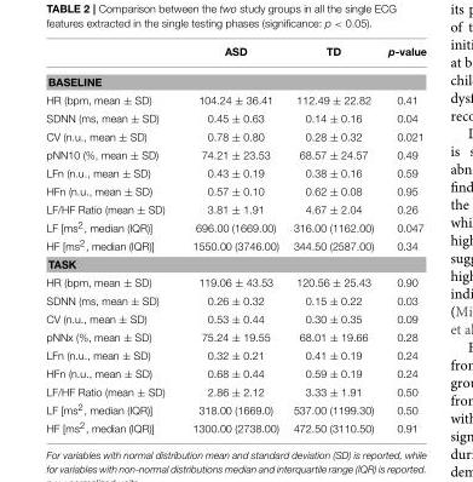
<table><thead><tr><td></td><td>ASD</td><td>TD</td><td>p-value</td></tr></thead><tbody><tr><td colspan="4">BASELINE</td></tr><tr><td>HR (bpm, mean ± SD)</td><td>104.24 ± 36.41</td><td>112.49 ± 22.82</td><td>0.41</td></tr><tr><td>SDNN (ms, mean ± SD)</td><td>0.45 ± 0.63</td><td>0.14 ± 0.16</td><td>0.04</td></tr><tr><td>CV (n.u., mean ± SD)</td><td>0.78 ± 0.80</td><td>0.28 ± 0.32</td><td>0.021</td></tr><tr><td>pNN10 (%, mean ± SD)</td><td>74.21 ± 23.53</td><td>68.57 ± 24.57</td><td>0.49</td></tr><tr><td>LFn (n.u., mean ± SD)</td><td>0.43 ± 0.19</td><td>0.38 ± 0.16</td><td>0.59</td></tr><tr><td>HFn (n.u., mean ± SD)</td><td>0.57 ± 0.10</td><td>0.62 ± 0.08</td><td>0.95</td></tr><tr><td>LF/HF Ratio (mean ± SD)</td><td>3.81 ± 1.91</td><td>4.67 ± 2.04</td><td>0.26</td></tr><tr><td>LF [ms<sup>2</sup>, median (IQR)]</td><td>696.00 (1669.00)</td><td>316.00 (1162.00)</td><td>0.047</td></tr><tr><td>HF [ms<sup>2</sup>, median (IQR)]</td><td>1550.00 (3746.00)</td><td>344.50 (2587.00)</td><td>0.34</td></tr><tr><td colspan="4">TASK</td></tr><tr><td>HR (bpm, mean ± SD)</td><td>119.06 ± 43.53</td><td>120.56 ± 25.43</td><td>0.90</td></tr><tr><td>SDNN (ms, mean ± SD)</td><td>0.26 ± 0.32</td><td>0.15 ± 0.22</td><td>0.03</td></tr><tr><td>CV (n.u., mean ± SD)</td><td>0.53 ± 0.44</td><td>0.30 ± 0.35</td><td>0.09</td></tr><tr><td>pNNx (%, mean ± SD)</td><td>75.24 ± 19.55</td><td>68.01 ± 19.66</td><td>0.28</td></tr><tr><td>LFn (n.u., mean ± SD)</td><td>0.32 ± 0.21</td><td>0.41 ± 0.19</td><td>0.24</td></tr><tr><td>HFn (n.u., mean ± SD)</td><td>0.68 ± 0.44</td><td>0.59 ± 0.19</td><td>0.24</td></tr><tr><td>LF/HF Ratio (mean ± SD)</td><td>2.86 ± 2.12</td><td>3.33 ± 1.91</td><td>0.50</td></tr><tr><td>LF [ms<sup>2</sup>, median (IQR)]</td><td>318.00 (1669.0)</td><td>537.00 (1199.30)</td><td>0.50</td></tr><tr><td>HF [ms<sup>2</sup>, median (IQR)]</td><td>1300.00 (2738.00)</td><td>472.50 (3110.50)</td><td>0.91</td></tr></tbody></table>